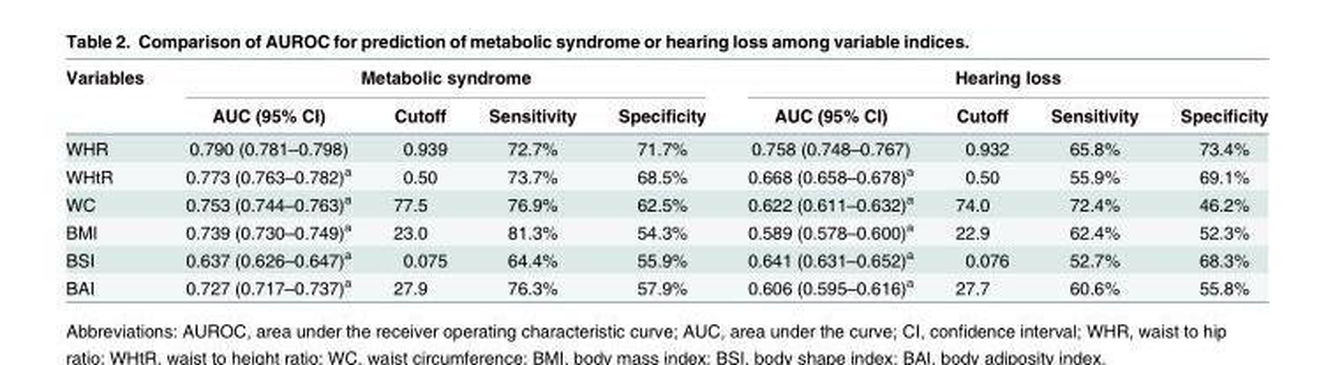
<table><thead><tr><td rowspan="2">Variables</td><td colspan="4">Metabolic syndrome</td><td colspan="4">Hearing loss</td></tr><tr><td>AUC (95% CI)</td><td>Cutoff</td><td>Sensitivity</td><td>Specificity</td><td>AUC (95% CI)</td><td>Cutoff</td><td>Sensitivity</td><td>Specificity</td></tr></thead><tbody><tr><td>WHR</td><td>0.790 (0.781–0.798)</td><td>0.939</td><td>72.7%</td><td>71.7%</td><td>0.758 (0.748–0.767)</td><td>0.932</td><td>65.8%</td><td>73.4%</td></tr><tr><td>WHtR</td><td>0.773 (0.763–0.782)<sup>a</sup></td><td>0.50</td><td>73.7%</td><td>68.5%</td><td>0.668 (0.658–0.678)<sup>a</sup></td><td>0.50</td><td>55.9%</td><td>69.1%</td></tr><tr><td>WC</td><td>0.753 (0.744–0.763)<sup>a</sup></td><td>77.5</td><td>76.9%</td><td>62.5%</td><td>0.622 (0.611–0.632)<sup>a</sup></td><td>74.0</td><td>72.4%</td><td>46.2%</td></tr><tr><td>BMI</td><td>0.739 (0.730–0.749)<sup>a</sup></td><td>23.0</td><td>81.3%</td><td>54.3%</td><td>0.589 (0.578–0.600)<sup>a</sup></td><td>22.9</td><td>62.4%</td><td>52.3%</td></tr><tr><td>BSI</td><td>0.637 (0.626–0.647)<sup>a</sup></td><td>0.075</td><td>64.4%</td><td>55.9%</td><td>0.641 (0.631–0.652)<sup>a</sup></td><td>0.076</td><td>52.7%</td><td>68.3%</td></tr><tr><td>BAI</td><td>0.727 (0.717–0.737)<sup>a</sup></td><td>27.9</td><td>76.3%</td><td>57.9%</td><td>0.606 (0.595–0.616)<sup>a</sup></td><td>27.7</td><td>60.6%</td><td>55.8%</td></tr></tbody></table>